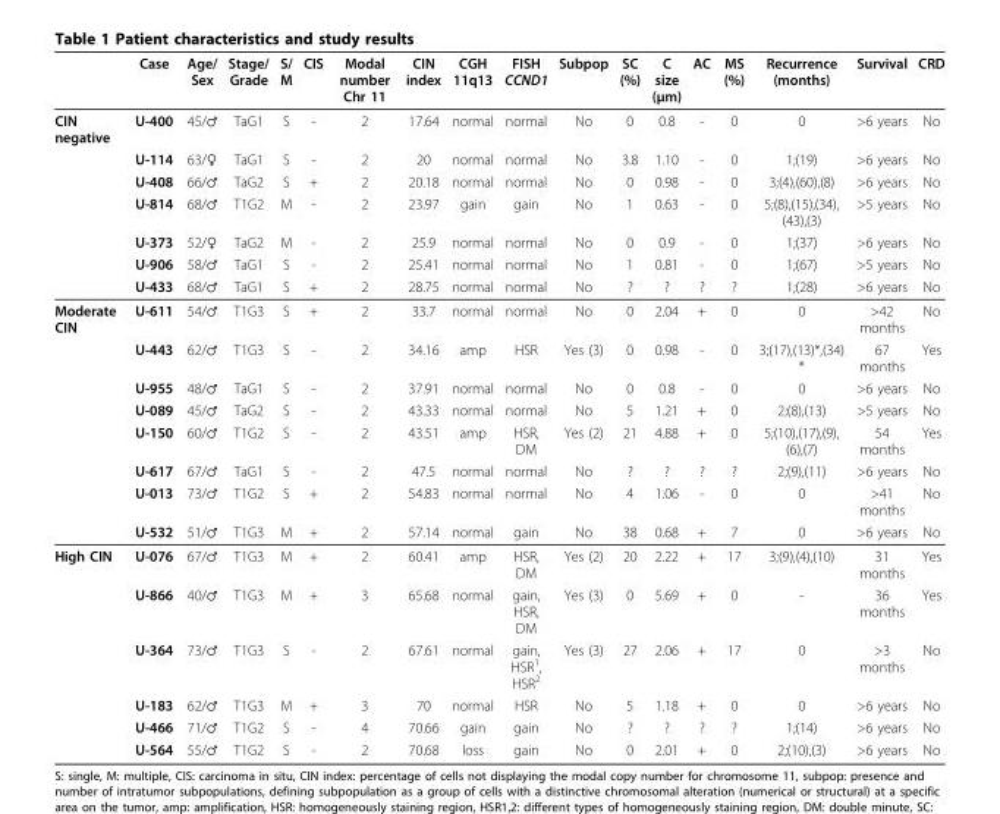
<table><thead><tr><td></td><td>Case</td><td>Age/ Sex</td><td>Stage/ Grade</td><td>S/ M</td><td>CIS</td><td>Modal number Chr 11</td><td>CIN index</td><td>CGH 11q13</td><td>FISH CCND1</td><td>Subpop</td><td>SC (%)</td><td>C size (μm)</td><td>AC</td><td>MS (%)</td><td>Recurrence (months)</td><td>Survival</td><td>CRD</td></tr></thead><tbody><tr><td rowspan="7">CIN negative</td><td>U-400</td><td>45/♂</td><td>TaG1</td><td>S</td><td>-</td><td>2</td><td>17.64</td><td>normal</td><td>normal</td><td>No</td><td>0</td><td>0.8</td><td>-</td><td>0</td><td>0</td><td>&gt;6 years</td><td>No</td></tr><tr><td>U-114</td><td>63/♀</td><td>TaG1</td><td>S</td><td>-</td><td>2</td><td>20</td><td>normal</td><td>normal</td><td>No</td><td>3.8</td><td>1.10</td><td>-</td><td>0</td><td>1;(19)</td><td>&gt;6 years</td><td>No</td></tr><tr><td>U-408</td><td>66/♂</td><td>TaG2</td><td>S</td><td>+</td><td>2</td><td>20.18</td><td>normal</td><td>normal</td><td>No</td><td>0</td><td>0.98</td><td>-</td><td>0</td><td>3;(4),(60),(8)</td><td>&gt;6 years</td><td>No</td></tr><tr><td>U-814</td><td>68/♂</td><td>T1G2</td><td>M</td><td>-</td><td>2</td><td>23.97</td><td>gain</td><td>gain</td><td>No</td><td>1</td><td>0.63</td><td>-</td><td>0</td><td>5;(8),(15),(34), (43),(3)</td><td>&gt;5 years</td><td>No</td></tr><tr><td>U-373</td><td>52/♀</td><td>TaG2</td><td>M</td><td>-</td><td>2</td><td>25.9</td><td>normal</td><td>normal</td><td>No</td><td>0</td><td>0.9</td><td>-</td><td>0</td><td>1;(37)</td><td>&gt;6 years</td><td>No</td></tr><tr><td>U-906</td><td>58/♂</td><td>TaG1</td><td>S</td><td>-</td><td>2</td><td>25.41</td><td>normal</td><td>normal</td><td>No</td><td>1</td><td>0.81</td><td>-</td><td>0</td><td>1;(67)</td><td>&gt;5 years</td><td>No</td></tr><tr><td>U-433</td><td>68/♂</td><td>TaG1</td><td>S</td><td>+</td><td>2</td><td>28.75</td><td>normal</td><td>normal</td><td>No</td><td>?</td><td>?</td><td>?</td><td>?</td><td>1;(28)</td><td>&gt;6 years</td><td>No</td></tr><tr><td rowspan="8">Moderate CIN</td><td>U-611</td><td>54/♂</td><td>T1G3</td><td>S</td><td>+</td><td>2</td><td>33.7</td><td>normal</td><td>normal</td><td>No</td><td>0</td><td>2.04</td><td>+</td><td>0</td><td>0</td><td>&gt;42 months</td><td>No</td></tr><tr><td>U-443</td><td>62/♂</td><td>T1G3</td><td>S</td><td>-</td><td>2</td><td>34.16</td><td>amp</td><td>HSR</td><td>Yes (3)</td><td>0</td><td>0.98</td><td>-</td><td>0</td><td>3;(17),(13)*,(34) *</td><td>67 months</td><td>Yes</td></tr><tr><td>U-955</td><td>48/♂</td><td>TaG1</td><td>S</td><td>-</td><td>2</td><td>37.91</td><td>normal</td><td>normal</td><td>No</td><td>0</td><td>0.8</td><td>-</td><td>0</td><td>0</td><td>&gt;6 years</td><td>No</td></tr><tr><td>U-089</td><td>45/♂</td><td>TaG2</td><td>S</td><td>-</td><td>2</td><td>43.33</td><td>normal</td><td>normal</td><td>No</td><td>5</td><td>1.21</td><td>+</td><td>0</td><td>2;(8),(13)</td><td>&gt;5 years</td><td>No</td></tr><tr><td>U-150</td><td>60/♂</td><td>T1G2</td><td>S</td><td>-</td><td>2</td><td>43.51</td><td>amp</td><td>HSR, DM</td><td>Yes (2)</td><td>21</td><td>4.88</td><td>+</td><td>0</td><td>5;(10),(17),(9), (6),(7)</td><td>54 months</td><td>Yes</td></tr><tr><td>U-617</td><td>67/♂</td><td>TaG1</td><td>S</td><td>-</td><td>2</td><td>47.5</td><td>normal</td><td>normal</td><td>No</td><td>?</td><td>?</td><td>?</td><td>?</td><td>2;(9),(11)</td><td>&gt;6 years</td><td>No</td></tr><tr><td>U-013</td><td>73/♂</td><td>T1G2</td><td>S</td><td>+</td><td>2</td><td>54.83</td><td>normal</td><td>normal</td><td>No</td><td>4</td><td>1.06</td><td>-</td><td>0</td><td>0</td><td>&gt;41 months</td><td>No</td></tr><tr><td>U-532</td><td>51/♂</td><td>T1G3</td><td>M</td><td>+</td><td>2</td><td>57.14</td><td>normal</td><td>gain</td><td>No</td><td>38</td><td>0.68</td><td>+</td><td>7</td><td>0</td><td>&gt;6 years</td><td>No</td></tr><tr><td rowspan="6">High CIN</td><td>U-076</td><td>67/♂</td><td>T1G3</td><td>M</td><td>+</td><td>2</td><td>60.41</td><td>amp</td><td>HSR, DM</td><td>Yes (2)</td><td>20</td><td>2.22</td><td>+</td><td>17</td><td>3;(9),(4),(10)</td><td>31 months</td><td>Yes</td></tr><tr><td>U-866</td><td>40/♂</td><td>T1G3</td><td>M</td><td>+</td><td>3</td><td>65.68</td><td>normal</td><td>gain, HSR, DM</td><td>Yes (3)</td><td>0</td><td>5.69</td><td>+</td><td>0</td><td>-</td><td>36 months</td><td>Yes</td></tr><tr><td>U-364</td><td>73/♂</td><td>T1G3</td><td>S</td><td>-</td><td>2</td><td>67.61</td><td>normal</td><td>gain, HSR<sup>1</sup>, HSR<sup>2</sup></td><td>Yes (3)</td><td>27</td><td>2.06</td><td>+</td><td>17</td><td>0</td><td>&gt;3 months</td><td>No</td></tr><tr><td>U-183</td><td>62/♂</td><td>T1G3</td><td>M</td><td>+</td><td>3</td><td>70</td><td>normal</td><td>HSR</td><td>No</td><td>5</td><td>1.18</td><td>+</td><td>0</td><td>0</td><td>&gt;6 years</td><td>No</td></tr><tr><td>U-466</td><td>71/♂</td><td>T1G2</td><td>S</td><td>-</td><td>4</td><td>70.66</td><td>gain</td><td>gain</td><td>No</td><td>?</td><td>?</td><td>?</td><td>?</td><td>1;(14)</td><td>&gt;6 years</td><td>No</td></tr><tr><td>U-564</td><td>55/♂</td><td>T1G2</td><td>S</td><td>-</td><td>2</td><td>70.68</td><td>loss</td><td>gain</td><td>No</td><td>0</td><td>2.01</td><td>+</td><td>0</td><td>2;(10),(3)</td><td>&gt;6 years</td><td>No</td></tr></tbody></table>